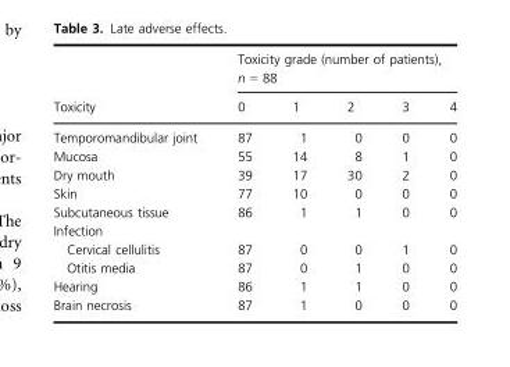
<table><thead><tr><td rowspan="2">Toxicity</td><td colspan="5">Toxicity grade (number of patients), n = 88</td></tr><tr><td>0</td><td>1</td><td>2</td><td>3</td><td>4</td></tr></thead><tbody><tr><td>Temporomandibular joint</td><td>87</td><td>1</td><td>0</td><td>0</td><td>0</td></tr><tr><td>Mucosa</td><td>55</td><td>14</td><td>8</td><td>1</td><td>0</td></tr><tr><td>Dry mouth</td><td>39</td><td>17</td><td>30</td><td>2</td><td>0</td></tr><tr><td>Skin</td><td>77</td><td>10</td><td>0</td><td>0</td><td>0</td></tr><tr><td>Subcutaneous tissue</td><td>86</td><td>1</td><td>1</td><td>0</td><td>0</td></tr><tr><td colspan="6">Infection</td></tr><tr><td>Cervical cellulitis</td><td>87</td><td>0</td><td>0</td><td>1</td><td>0</td></tr><tr><td>Otitis media</td><td>87</td><td>0</td><td>1</td><td>0</td><td>0</td></tr><tr><td>Hearing</td><td>86</td><td>1</td><td>1</td><td>0</td><td>0</td></tr><tr><td>Brain necrosis</td><td>87</td><td>1</td><td>0</td><td>0</td><td>0</td></tr></tbody></table>